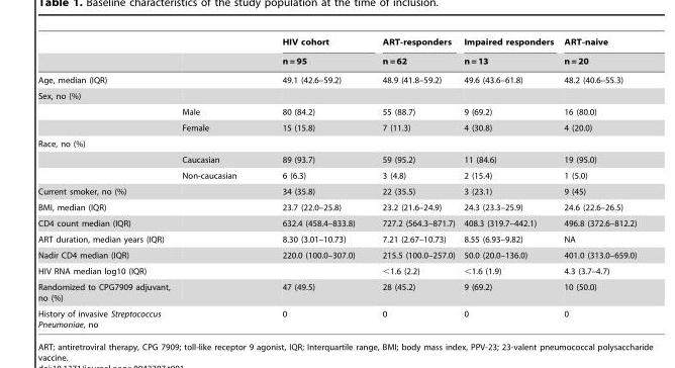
<table><thead><tr><td rowspan="2"></td><td rowspan="2"></td><td rowspan="2">HIV cohort n = 95</td><td rowspan="2">ART-responders n = 62</td><td rowspan="2">Impaired responders n = 13</td><td rowspan="2">ART-naive n = 20</td></tr><tr></tr></thead><tbody><tr><td>Age, median (IQR)</td><td></td><td>49.1 (42.6–59.2)</td><td>48.9 (41.8–59.2)</td><td>49.6 (43.6–61.8)</td><td>48.2 (40.6–55.3)</td></tr><tr><td colspan="6">Sex, no (%)</td></tr><tr><td></td><td>Male</td><td>80 (84.2)</td><td>55 (88.7)</td><td>9 (69.2)</td><td>16 (80.0)</td></tr><tr><td></td><td>Female</td><td>15 (15.8)</td><td>7 (11.3)</td><td>4 (30.8)</td><td>4 (20.0)</td></tr><tr><td colspan="6">Race, no (%)</td></tr><tr><td></td><td>Caucasian</td><td>89 (93.7)</td><td>59 (95.2)</td><td>11 (84.6)</td><td>19 (95.0)</td></tr><tr><td></td><td>Non-caucasian</td><td>6 (6.3)</td><td>3 (4.8)</td><td>2 (15.4)</td><td>1 (5.0)</td></tr><tr><td>Current smoker, no (%)</td><td></td><td>34 (35.8)</td><td>22 (35.5)</td><td>3 (23.1)</td><td>9 (45)</td></tr><tr><td>BMI, median (IQR)</td><td></td><td>23.7 (22.0–25.8)</td><td>23.2 (21.6–24.9)</td><td>24.3 (23.3–25.9)</td><td>24.6 (22.6–26.5)</td></tr><tr><td>CD4 count median (IQR)</td><td></td><td>632.4 (458.4–833.8)</td><td>727.2 (564.3–871.7)</td><td>408.3 (319.7–442.1)</td><td>496.8 (372.6–812.2)</td></tr><tr><td>ART duration, median years (IQR)</td><td></td><td>8.30 (3.01–10.73)</td><td>7.21 (2.67–10.73)</td><td>8.55 (6.93–9.82)</td><td>NA</td></tr><tr><td>Nadir CD4 median (IQR)</td><td></td><td>220.0 (100.0–307.0)</td><td>215.5 (100.0–257.0)</td><td>50.0 (20.0–136.0)</td><td>401.0 (313.0–659.0)</td></tr><tr><td>HIV RNA median log10 (IQR)</td><td></td><td></td><td>&lt;1.6 (2.2)</td><td>&lt;1.6 (1.9)</td><td>4.3 (3.7–4.7)</td></tr><tr><td>Randomized to CPG7909 adjuvant, no (%)</td><td></td><td>47 (49.5)</td><td>28 (45.2)</td><td>9 (69.2)</td><td>10 (50.0)</td></tr><tr><td>History of invasive Streptococcus Pneumoniae, no</td><td></td><td>0</td><td>0</td><td>0</td><td>0</td></tr></tbody></table>